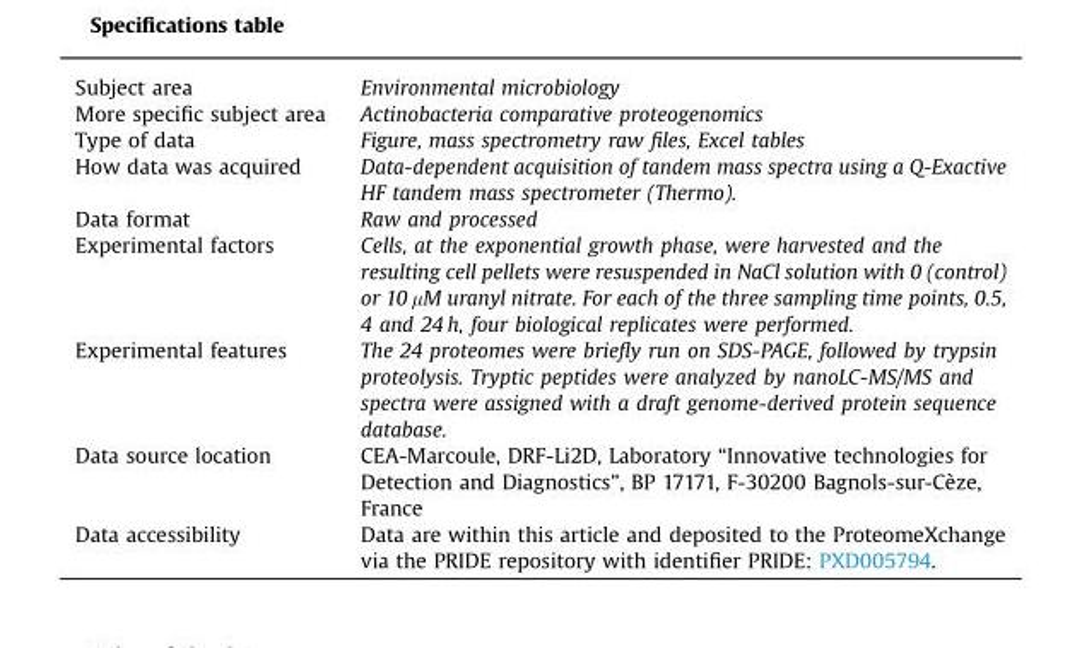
<table><tbody><tr><td>Subject area</td><td>Environmental microbiology</td></tr><tr><td>More specific subject area</td><td>Actinobacteria comparative proteogenomics</td></tr><tr><td>Type of data</td><td>Figure, mass spectrometry raw files, Excel tables</td></tr><tr><td>How data was acquired</td><td>Data-dependent acquisition of tandem mass spectra using a Q-Exactive HF tandem mass spectrometer (Thermo).</td></tr><tr><td>Data format</td><td>Raw and processed</td></tr><tr><td>Experimental factors</td><td>Cells, at the exponential growth phase, were harvested and the resulting cell pellets were resuspended in NaCl solution with 0 (control) or 10 µM uranyl nitrate. For each of the three sampling time points, 0.5, 4 and 24 h, four biological replicates were performed.</td></tr><tr><td>Experimental features</td><td>The 24 proteomes were briefly run on SDS-PAGE, followed by trypsin proteolysis. Tryptic peptides were analyzed by nanoLC-MS/MS and spectra were assigned with a draft genome-derived protein sequence database.</td></tr><tr><td>Data source location</td><td>CEA-Marcoule, DRF-Li2D, Laboratory “Innovative technologies for Detection and Diagnostics”, BP 17171, F-30200 Bagnols-sur-Cèze, France</td></tr><tr><td>Data accessibility</td><td>Data are within this article and deposited to the ProteomeXchange via the PRIDE repository with identifier PRIDE: PXD005794.</td></tr></tbody></table>